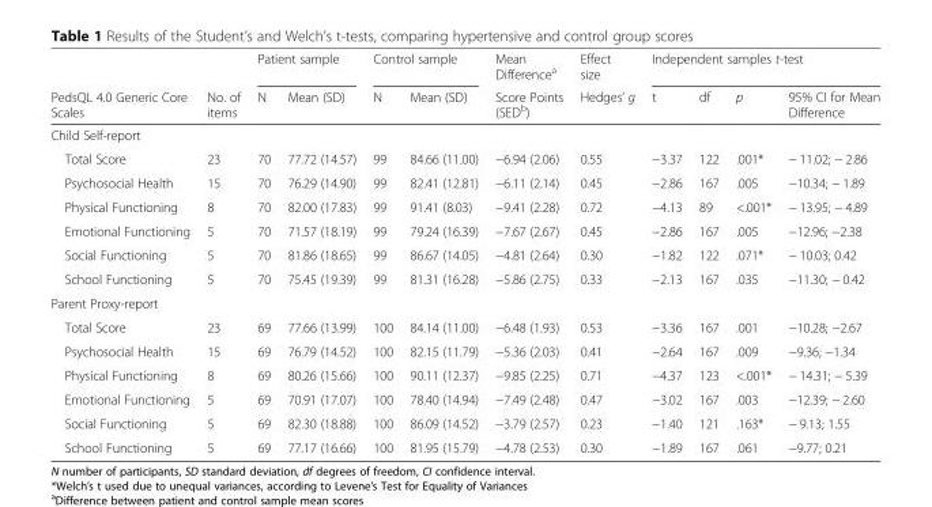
<table><thead><tr><td rowspan="2">PedsQL 4.0 Generic Core Scales</td><td rowspan="2">No. of items</td><td colspan="2">Patient sample</td><td colspan="2">Control sample</td><td rowspan="2">Mean Difference<sup>a</sup> Score Points (SED<sup>b</sup>)</td><td rowspan="2">Effect size Hedges’ g</td><td colspan="4">Independent samples t-test</td></tr><tr><td>N</td><td>Mean (SD)</td><td>N</td><td>Mean (SD)</td><td>t</td><td>df</td><td>p</td><td>95% CI for Mean Difference</td></tr></thead><tbody><tr><td colspan="12">Child Self-report</td></tr><tr><td>Total Score</td><td>23</td><td>70</td><td>77.72 (14.57)</td><td>99</td><td>84.66 (11.00)</td><td>−6.94 (2.06)</td><td>0.55</td><td>−3.37</td><td>122</td><td>.001*</td><td>− 11.02; − 2.86</td></tr><tr><td>Psychosocial Health</td><td>15</td><td>70</td><td>76.29 (14.90)</td><td>99</td><td>82.41 (12.81)</td><td>−6.11 (2.14)</td><td>0.45</td><td>−2.86</td><td>167</td><td>.005</td><td>−10.34; − 1.89</td></tr><tr><td>Physical Functioning</td><td>8</td><td>70</td><td>82.00 (17.83)</td><td>99</td><td>91.41 (8.03)</td><td>−9.41 (2.28)</td><td>0.72</td><td>−4.13</td><td>89</td><td>&lt;.001*</td><td>− 13.95; − 4.89</td></tr><tr><td>Emotional Functioning</td><td>5</td><td>70</td><td>71.57 (18.19)</td><td>99</td><td>79.24 (16.39)</td><td>−7.67 (2.67)</td><td>0.45</td><td>−2.86</td><td>167</td><td>.005</td><td>−12.96; −2.38</td></tr><tr><td>Social Functioning</td><td>5</td><td>70</td><td>81.86 (18.65)</td><td>99</td><td>86.67 (14.05)</td><td>−4.81 (2.64)</td><td>0.30</td><td>−1.82</td><td>122</td><td>.071*</td><td>− 10.03; 0.42</td></tr><tr><td>School Functioning</td><td>5</td><td>70</td><td>75.45 (19.39)</td><td>99</td><td>81.31 (16.28)</td><td>−5.86 (2.75)</td><td>0.33</td><td>−2.13</td><td>167</td><td>.035</td><td>−11.30; − 0.42</td></tr><tr><td colspan="12">Parent Proxy-report</td></tr><tr><td>Total Score</td><td>23</td><td>69</td><td>77.66 (13.99)</td><td>100</td><td>84.14 (11.00)</td><td>−6.48 (1.93)</td><td>0.53</td><td>−3.36</td><td>167</td><td>.001</td><td>−10.28; −2.67</td></tr><tr><td>Psychosocial Health</td><td>15</td><td>69</td><td>76.79 (14.52)</td><td>100</td><td>82.15 (11.79)</td><td>−5.36 (2.03)</td><td>0.41</td><td>−2.64</td><td>167</td><td>.009</td><td>−9.36; −1.34</td></tr><tr><td>Physical Functioning</td><td>8</td><td>69</td><td>80.26 (15.66)</td><td>100</td><td>90.11 (12.37)</td><td>−9.85 (2.25)</td><td>0.71</td><td>−4.37</td><td>123</td><td>&lt;.001*</td><td>− 14.31; − 5.39</td></tr><tr><td>Emotional Functioning</td><td>5</td><td>69</td><td>70.91 (17.07)</td><td>100</td><td>78.40 (14.94)</td><td>−7.49 (2.48)</td><td>0.47</td><td>−3.02</td><td>167</td><td>.003</td><td>−12.39; − 2.60</td></tr><tr><td>Social Functioning</td><td>5</td><td>69</td><td>82.30 (18.88)</td><td>100</td><td>86.09 (14.52)</td><td>−3.79 (2.57)</td><td>0.23</td><td>−1.40</td><td>121</td><td>.163*</td><td>− 9.13; 1.55</td></tr><tr><td>School Functioning</td><td>5</td><td>69</td><td>77.17 (16.66)</td><td>100</td><td>81.95 (15.79)</td><td>−4.78 (2.53)</td><td>0.30</td><td>−1.89</td><td>167</td><td>.061</td><td>−9.77; 0.21</td></tr></tbody></table>